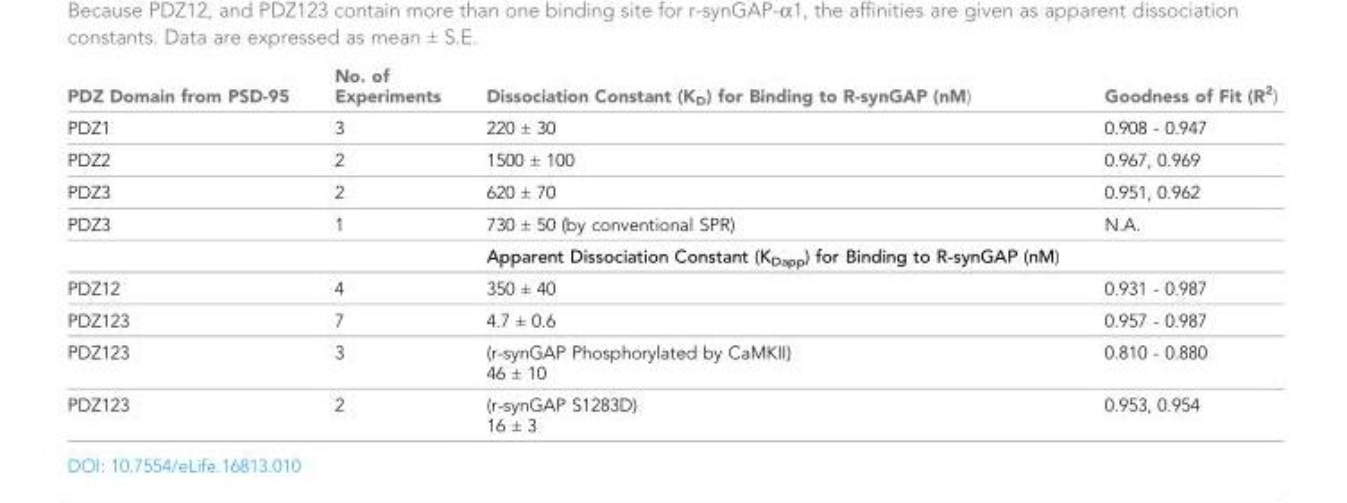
<table><thead><tr><td>PDZ Domain from PSD-95</td><td>No. of Experiments</td><td>Dissociation Constant (K<sub>D</sub>) for Binding to R-synGAP (nM)</td><td>Goodness of Fit (R<sup>2</sup>)</td></tr></thead><tbody><tr><td>PDZ1</td><td>3</td><td>220 ± 30</td><td>0.908 - 0.947</td></tr><tr><td>PDZ2</td><td>2</td><td>1500 ± 100</td><td>0.967, 0.969</td></tr><tr><td>PDZ3</td><td>2</td><td>620 ± 70</td><td>0.951, 0.962</td></tr><tr><td rowspan="2">PDZ3</td><td>1</td><td>730 ± 50 (by conventional SPR)</td><td>N.A.</td></tr><tr><td></td><td>Apparent Dissociation Constant (K<sub>Dapp</sub>) for Binding to R-synGAP (nM)</td><td></td></tr><tr><td>PDZ12</td><td>4</td><td>350 ± 40</td><td>0.931 - 0.987</td></tr><tr><td>PDZ123</td><td>7</td><td>4.7 ± 0.6</td><td>0.957 - 0.987</td></tr><tr><td>PDZ123</td><td>3</td><td>(r-synGAP Phosphorylated by CaMKII) 46 ± 10</td><td>0.810 - 0.880</td></tr><tr><td>PDZ123</td><td>2</td><td>(r-synGAP S1283D) 16 ± 3</td><td>0.953, 0.954</td></tr></tbody></table>